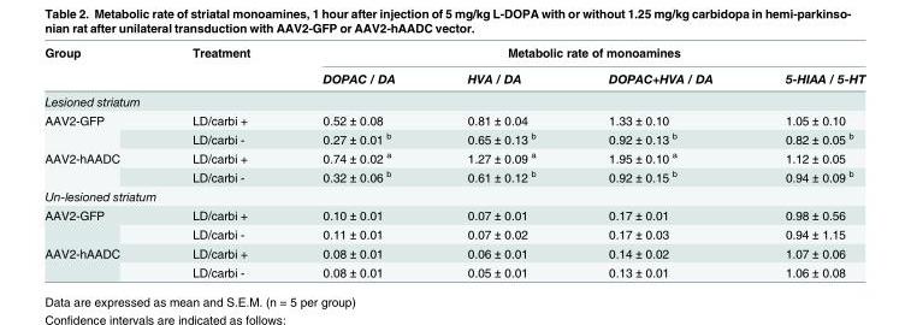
<table><thead><tr><td rowspan="2">Group</td><td rowspan="2">Treatment</td><td colspan="4">Metabolic rate of monoamines</td></tr><tr><td>DOPAC / DA</td><td>HVA / DA</td><td>DOPAC+HVA / DA</td><td>5-HIAA / 5-HT</td></tr></thead><tbody><tr><td colspan="6">Lesioned striatum</td></tr><tr><td rowspan="2">AAV2-GFP</td><td>LD/carbi +</td><td>0.52 ± 0.08</td><td>0.81 ± 0.04</td><td>1.33 ± 0.10</td><td>1.05 ± 0.10</td></tr><tr><td>LD/carbi -</td><td>0.27 ± 0.01 <sup>b</sup></td><td>0.65 ± 0.13 <sup>b</sup></td><td>0.92 ± 0.13 <sup>b</sup></td><td>0.82 ± 0.05 <sup>b</sup></td></tr><tr><td rowspan="2">AAV2-hAADC</td><td>LD/carbi +</td><td>0.74 ± 0.02 <sup>a</sup></td><td>1.27 ± 0.09 <sup>a</sup></td><td>1.95 ± 0.10 <sup>a</sup></td><td>1.12 ± 0.05</td></tr><tr><td>LD/carbi -</td><td>0.32 ± 0.06 <sup>b</sup></td><td>0.61 ± 0.12 <sup>b</sup></td><td>0.92 ± 0.15 <sup>b</sup></td><td>0.94 ± 0.09 <sup>b</sup></td></tr><tr><td colspan="6">Un-lesioned striatum</td></tr><tr><td rowspan="2">AAV2-GFP</td><td>LD/carbi +</td><td>0.10 ± 0.01</td><td>0.07 ± 0.01</td><td>0.17 ± 0.01</td><td>0.98 ± 0.56</td></tr><tr><td>LD/carbi -</td><td>0.11 ± 0.01</td><td>0.07 ± 0.02</td><td>0.17 ± 0.03</td><td>0.94 ± 1.15</td></tr><tr><td rowspan="2">AAV2-hAADC</td><td>LD/carbi +</td><td>0.08 ± 0.01</td><td>0.06 ± 0.01</td><td>0.14 ± 0.02</td><td>1.07 ± 0.06</td></tr><tr><td>LD/carbi -</td><td>0.08 ± 0.01</td><td>0.05 ± 0.01</td><td>0.13 ± 0.01</td><td>1.06 ± 0.08</td></tr></tbody></table>